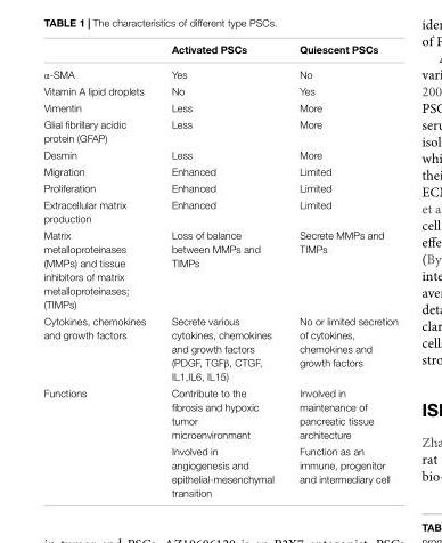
<table><thead><tr><td></td><td>Activated PSCs</td><td>Quiescent PSCs</td></tr></thead><tbody><tr><td>α-SMA</td><td>Yes</td><td>No</td></tr><tr><td>Vitamin A lipid droplets</td><td>No</td><td>Yes</td></tr><tr><td>Vimentin</td><td>Less</td><td>More</td></tr><tr><td>Glial fibrillary acidic protein (GFAP)</td><td>Less</td><td>More</td></tr><tr><td>Desmin</td><td>Less</td><td>More</td></tr><tr><td>Migration</td><td>Enhanced</td><td>Limited</td></tr><tr><td>Proliferation</td><td>Enhanced</td><td>Limited</td></tr><tr><td>Extracellular matrix production</td><td>Enhanced</td><td>Limited</td></tr><tr><td>Matrix metalloproteinases (MMPs) and tissue inhibitors of matrix metalloproteinases; (TIMPs)</td><td>Loss of balance between MMPs and TIMPs</td><td>Secrete MMPs and TIMPs</td></tr><tr><td>Cytokines, chemokines and growth factors</td><td>Secrete various cytokines, chemokines and growth factors (PDGF, TGFβ, CTGF, IL1,IL6, IL15)</td><td>No or limited secretion of cytokines, chemokines and growth factors</td></tr><tr><td rowspan="2">Functions</td><td>Contribute to the fibrosis and hypoxic tumor microenvironment</td><td>Involved in maintenance of pancreatic tissue architecture</td></tr><tr><td>Involved in angiogenesis and epithelial-mesenchymal transition</td><td>Function as an immune, progenitor and intermediary cell</td></tr></tbody></table>